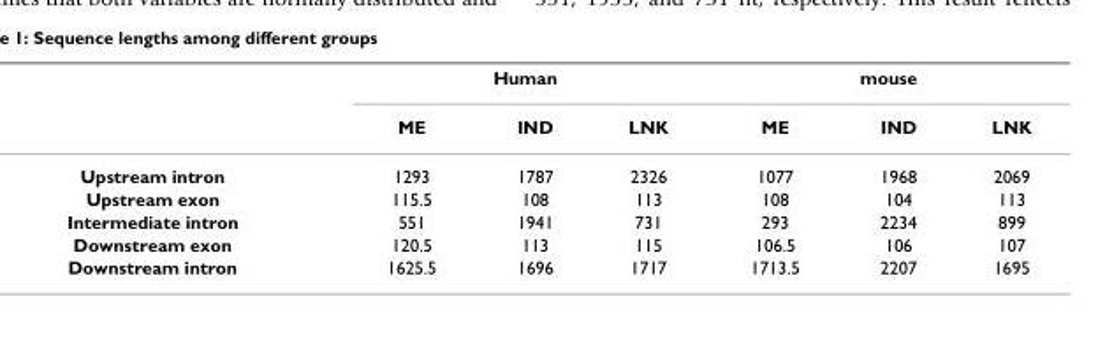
<table><thead><tr><td rowspan="2"></td><td colspan="3">Human</td><td colspan="3">mouse</td></tr><tr><td>ME</td><td>IND</td><td>LNK</td><td>ME</td><td>IND</td><td>LNK</td></tr></thead><tbody><tr><td>Upstream intron</td><td>1293</td><td>1787</td><td>2326</td><td>1077</td><td>1968</td><td>2069</td></tr><tr><td>Upstream exon</td><td>115.5</td><td>108</td><td>113</td><td>108</td><td>104</td><td>113</td></tr><tr><td>Intermediate intron</td><td>551</td><td>1941</td><td>731</td><td>293</td><td>2234</td><td>899</td></tr><tr><td>Downstream exon</td><td>120.5</td><td>113</td><td>115</td><td>106.5</td><td>106</td><td>107</td></tr><tr><td>Downstream intron</td><td>1625.5</td><td>1696</td><td>1717</td><td>1713.5</td><td>2207</td><td>1695</td></tr></tbody></table>